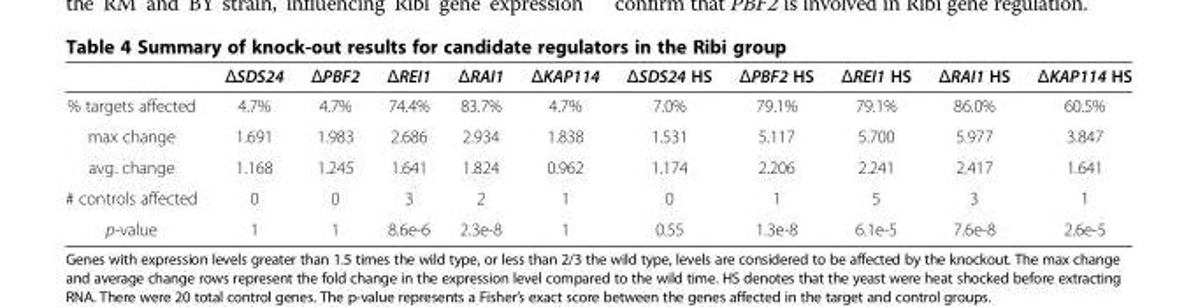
<table><thead><tr><td></td><td>ΔSDS24</td><td>ΔPBF2</td><td>ΔREI1</td><td>ΔRAI1</td><td>ΔKAP114</td><td>ΔSDS24 HS</td><td>ΔPBF2 HS</td><td>ΔREI1 HS</td><td>ΔRAI1 HS</td><td>ΔKAP114 HS</td></tr></thead><tbody><tr><td>% targets affected</td><td>4.7%</td><td>4.7%</td><td>74.4%</td><td>83.7%</td><td>4.7%</td><td>7.0%</td><td>79.1%</td><td>79.1%</td><td>86.0%</td><td>60.5%</td></tr><tr><td>max change</td><td>1.691</td><td>1.983</td><td>2.686</td><td>2.934</td><td>1.838</td><td>1.531</td><td>5.117</td><td>5.700</td><td>5.977</td><td>3.847</td></tr><tr><td>avg. change</td><td>1.168</td><td>1.245</td><td>1.641</td><td>1.824</td><td>0.962</td><td>1.174</td><td>2.206</td><td>2.241</td><td>2.417</td><td>1.641</td></tr><tr><td># controls affected</td><td>0</td><td>0</td><td>3</td><td>2</td><td>1</td><td>0</td><td>1</td><td>5</td><td>3</td><td>1</td></tr><tr><td>p-value</td><td>1</td><td>1</td><td>8.6e-6</td><td>2.3e-8</td><td>1</td><td>0.55</td><td>1.3e-8</td><td>6.1e-5</td><td>7.6e-8</td><td>2.6e-5</td></tr></tbody></table>